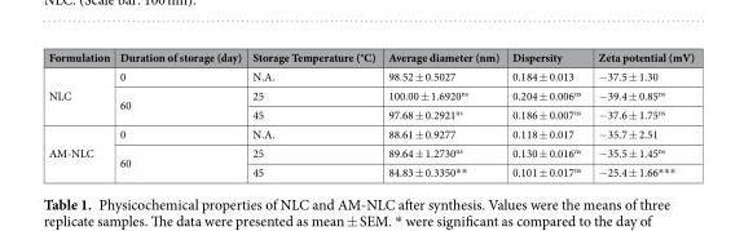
<table><thead><tr><td>Formulation</td><td>Duration of storage (day)</td><td>Storage Temperature (°C)</td><td>Average diameter (nm)</td><td>Dispersity</td><td>Zeta potential (mV)</td></tr></thead><tbody><tr><td rowspan="3">NLC</td><td>0</td><td>N.A.</td><td>98.52 ± 0.5027</td><td>0.184 ± 0.013</td><td>−37.5 ± 1.30</td></tr><tr><td rowspan="2">60</td><td>25</td><td>100.00 ± 1.6920<sup>ns</sup></td><td>0.204 ± 0.006<sup>ns</sup></td><td>−39.4 ± 0.85<sup>ns</sup></td></tr><tr><td>45</td><td>97.68 ± 0.2921<sup>ns</sup></td><td>0.186 ± 0.007<sup>ns</sup></td><td>−37.6 ± 1.75<sup>ns</sup></td></tr><tr><td rowspan="3">AM-NLC</td><td>0</td><td>N.A.</td><td>88.61 ± 0.9277</td><td>0.118 ± 0.017</td><td>−35.7 ± 2.51</td></tr><tr><td rowspan="2">60</td><td>25</td><td>89.64 ± 1.2730<sup>ns</sup></td><td>0.130 ± 0.016<sup>ns</sup></td><td>−35.5 ± 1.45<sup>ns</sup></td></tr><tr><td>45</td><td>84.83 ± 0.3350**</td><td>0.101 ± 0.017<sup>ns</sup></td><td>−25.4 ± 1.66***</td></tr></tbody></table>